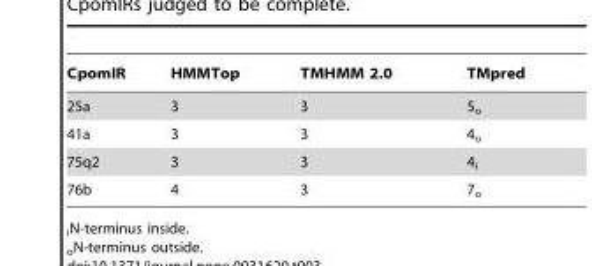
<table><thead><tr><td>CpomIR</td><td>HMMTop</td><td>TMHMM 2.0</td><td>TMpred</td></tr></thead><tbody><tr><td>25a</td><td>3</td><td>3</td><td>5<sub>o</sub></td></tr><tr><td>41a</td><td>3</td><td>3</td><td>4<sub>o</sub></td></tr><tr><td>75q2</td><td>3</td><td>3</td><td>4<sub>i</sub></td></tr><tr><td>76b</td><td>4</td><td>3</td><td>7<sub>o</sub></td></tr></tbody></table>